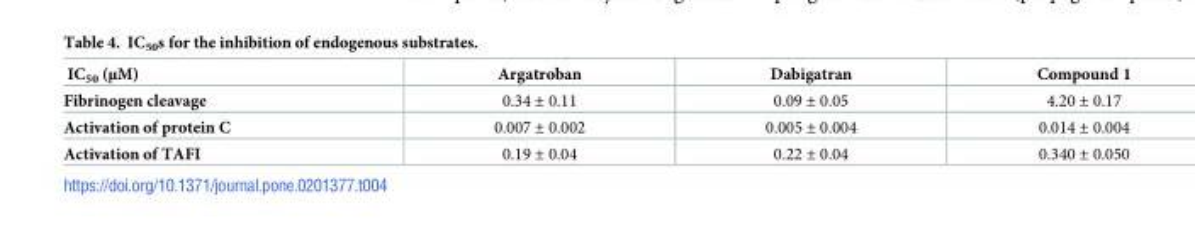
<table><thead><tr><td>IC<sub>50</sub> (μM)</td><td>Argatroban</td><td>Dabigatran</td><td>Compound 1</td></tr></thead><tbody><tr><td>Fibrinogen cleavage</td><td>0.34 ± 0.11</td><td>0.09 ± 0.05</td><td>4.20 ± 0.17</td></tr><tr><td>Activation of protein C</td><td>0.007 ± 0.002</td><td>0.005 ± 0.004</td><td>0.014 ± 0.004</td></tr><tr><td>Activation of TAFI</td><td>0.19 ± 0.04</td><td>0.22 ± 0.04</td><td>0.340 ± 0.050</td></tr></tbody></table>